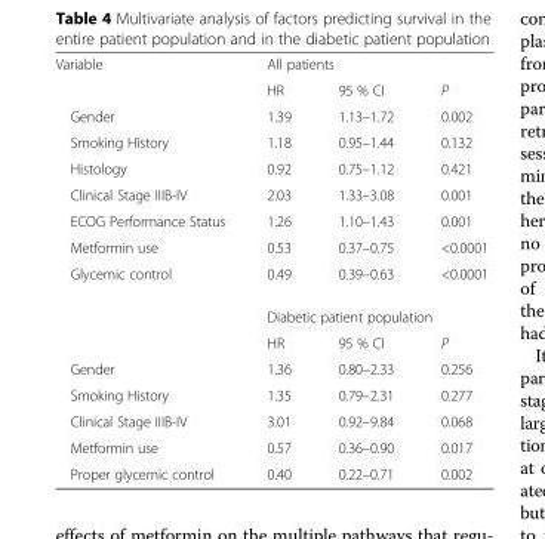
<table><tbody><tr><td rowspan="2">Variable</td><td colspan="3">All patients</td></tr><tr><td>HR</td><td>95 % CI</td><td>P</td></tr><tr><td>Gender</td><td>1.39</td><td>1.13–1.72</td><td>0.002</td></tr><tr><td>Smoking History</td><td>1.18</td><td>0.95–1.44</td><td>0.132</td></tr><tr><td>Histology</td><td>0.92</td><td>0.75–1.12</td><td>0.421</td></tr><tr><td>Clinical Stage IIIB-IV</td><td>2.03</td><td>1.33–3.08</td><td>0.001</td></tr><tr><td>ECOG Performance Status</td><td>1.26</td><td>1.10–1.43</td><td>0.001</td></tr><tr><td>Metformin use</td><td>0.53</td><td>0.37–0.75</td><td>&lt;0.0001</td></tr><tr><td rowspan="3">Glycemic control</td><td>0.49</td><td>0.39–0.63</td><td>&lt;0.0001</td></tr><tr><td colspan="3">Diabetic patient population</td></tr><tr><td>HR</td><td>95 % CI</td><td>P</td></tr><tr><td>Gender</td><td>1.36</td><td>0.80–2.33</td><td>0.256</td></tr><tr><td>Smoking History</td><td>1.35</td><td>0.79–2.31</td><td>0.277</td></tr><tr><td>Clinical Stage IIIB-IV</td><td>3.01</td><td>0.92–9.84</td><td>0.068</td></tr><tr><td>Metformin use</td><td>0.57</td><td>0.36–0.90</td><td>0.017</td></tr><tr><td>Proper glycemic control</td><td>0.40</td><td>0.22–0.71</td><td>0.002</td></tr></tbody></table>